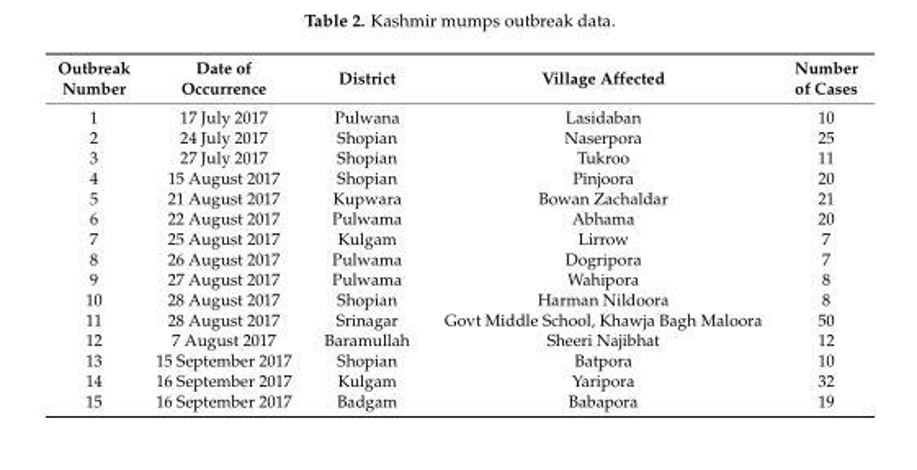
<table><thead><tr><td>Outbreak Number</td><td>Date of Occurrence</td><td>District</td><td>Village Affected</td><td>Number of Cases</td></tr></thead><tbody><tr><td>1</td><td>17 July 2017</td><td>Pulwana</td><td>Lasidaban</td><td>10</td></tr><tr><td>2</td><td>24 July 2017</td><td>Shopian</td><td>Naserpora</td><td>25</td></tr><tr><td>3</td><td>27 July 2017</td><td>Shopian</td><td>Tukroo</td><td>11</td></tr><tr><td>4</td><td>15 August 2017</td><td>Shopian</td><td>Pinjoora</td><td>20</td></tr><tr><td>5</td><td>21 August 2017</td><td>Kupwara</td><td>Bowan Zachaldar</td><td>21</td></tr><tr><td>6</td><td>22 August 2017</td><td>Pulwama</td><td>Abhama</td><td>20</td></tr><tr><td>7</td><td>25 August 2017</td><td>Kulgam</td><td>Lirrow</td><td>7</td></tr><tr><td>8</td><td>26 August 2017</td><td>Pulwama</td><td>Dogripora</td><td>7</td></tr><tr><td>9</td><td>27 August 2017</td><td>Pulwama</td><td>Wahipora</td><td>8</td></tr><tr><td>10</td><td>28 August 2017</td><td>Shopian</td><td>Harman Nildoora</td><td>8</td></tr><tr><td>11</td><td>28 August 2017</td><td>Srinagar</td><td>Govt Middle School, Khawja Bagh Maloora</td><td>50</td></tr><tr><td>12</td><td>7 August 2017</td><td>Baramullah</td><td>Sheeri Najibhat</td><td>12</td></tr><tr><td>13</td><td>15 September 2017</td><td>Shopian</td><td>Batpora</td><td>10</td></tr><tr><td>14</td><td>16 September 2017</td><td>Kulgam</td><td>Yaripora</td><td>32</td></tr><tr><td>15</td><td>16 September 2017</td><td>Badgam</td><td>Babapora</td><td>19</td></tr></tbody></table>